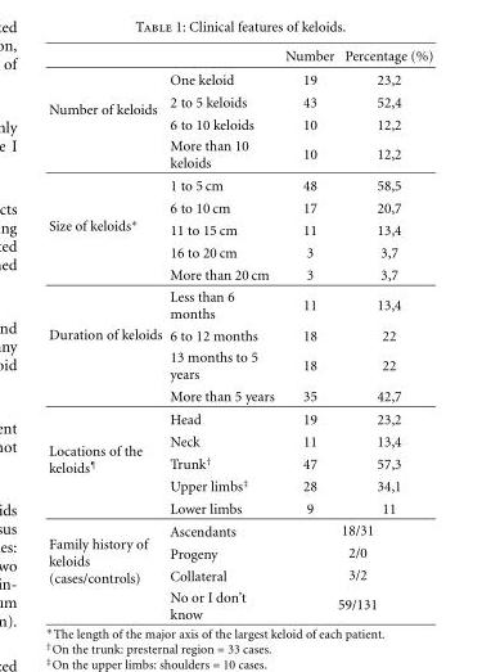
<table><thead><tr><td></td><td></td><td>Number</td><td>Percentage (%)</td></tr></thead><tbody><tr><td rowspan="4">Number of keloids</td><td>One keloid</td><td>19</td><td>23,2</td></tr><tr><td>2 to 5 keloids</td><td>43</td><td>52,4</td></tr><tr><td>6 to 10 keloids</td><td>10</td><td>12,2</td></tr><tr><td>More than 10 keloids</td><td>10</td><td>12,2</td></tr><tr><td rowspan="5">Size of keloids∗</td><td>1 to 5 cm</td><td>48</td><td>58,5</td></tr><tr><td>6 to 10 cm</td><td>17</td><td>20,7</td></tr><tr><td>11 to 15 cm</td><td>11</td><td>13,4</td></tr><tr><td>16 to 20 cm</td><td>3</td><td>3,7</td></tr><tr><td>More than 20 cm</td><td>3</td><td>3,7</td></tr><tr><td rowspan="4">Duration of keloids</td><td>Less than 6 months</td><td>11</td><td>13,4</td></tr><tr><td>6 to 12 months</td><td>18</td><td>22</td></tr><tr><td>13 months to 5 years</td><td>18</td><td>22</td></tr><tr><td>More than 5 years</td><td>35</td><td>42,7</td></tr><tr><td rowspan="5">Locations of the keloids<sup>¶</sup></td><td>Head</td><td>19</td><td>23,2</td></tr><tr><td>Neck</td><td>11</td><td>13,4</td></tr><tr><td>Trunk<sup>†</sup></td><td>47</td><td>57,3</td></tr><tr><td>Upper limbs<sup>‡</sup></td><td>28</td><td>34,1</td></tr><tr><td>Lower limbs</td><td>9</td><td>11</td></tr><tr><td rowspan="4">Family history of keloids (cases/controls)</td><td>Ascendants</td><td colspan="2">18/31</td></tr><tr><td>Progeny</td><td colspan="2">2/0</td></tr><tr><td>Collateral</td><td colspan="2">3/2</td></tr><tr><td>No or I don’t know</td><td colspan="2">59/131</td></tr></tbody></table>